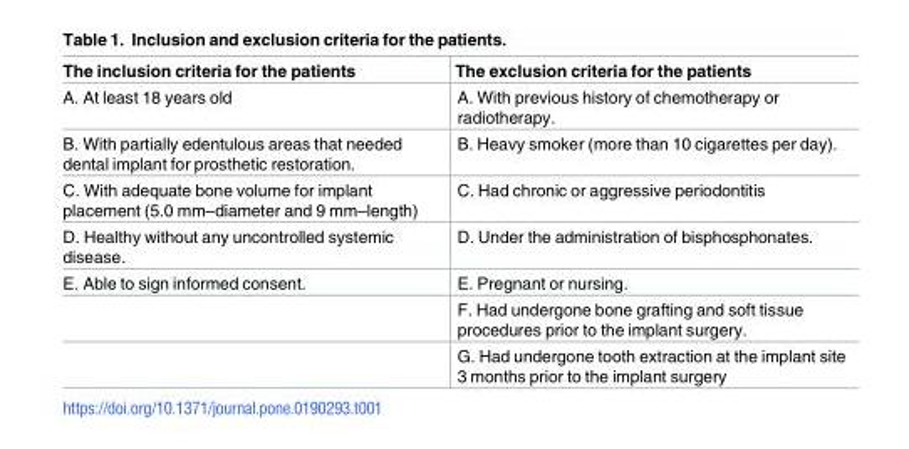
<table><thead><tr><td>The inclusion criteria for the patients</td><td>The exclusion criteria for the patients</td></tr></thead><tbody><tr><td>A. At least 18 years old</td><td>A. With previous history of chemotherapy or radiotherapy.</td></tr><tr><td>B. With partially edentulous areas that needed dental implant for prosthetic restoration.</td><td>B. Heavy smoker (more than 10 cigarettes per day).</td></tr><tr><td>C. With adequate bone volume for implant placement (5.0 mm–diameter and 9 mm–length)</td><td>C. Had chronic or aggressive periodontitis</td></tr><tr><td>D. Healthy without any uncontrolled systemic disease.</td><td>D. Under the administration of bisphosphonates.</td></tr><tr><td rowspan="3">E. Able to sign informed consent.</td><td>E. Pregnant or nursing.</td></tr><tr><td>F. Had undergone bone grafting and soft tissue procedures prior to the implant surgery.</td></tr><tr><td>G. Had undergone tooth extraction at the implant site 3 months prior to the implant surgery</td></tr></tbody></table>